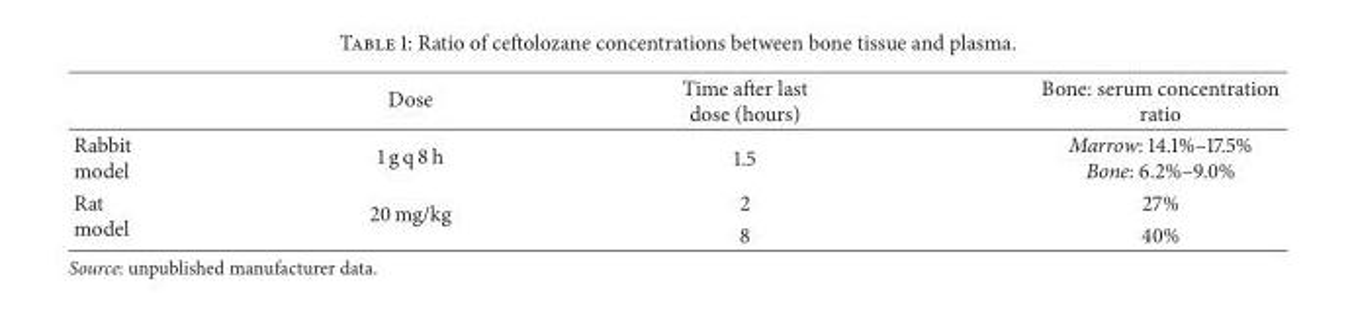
<table><thead><tr><td></td><td>Dose</td><td>Time after last dose (hours)</td><td>Bone: serum concentration ratio</td></tr></thead><tbody><tr><td>Rabbit model</td><td>1 g q 8 h</td><td>1.5</td><td>Marrow: 14.1%–17.5% Bone: 6.2%–9.0%</td></tr><tr><td rowspan="2">Rat model</td><td rowspan="2">20 mg/kg</td><td>2</td><td>27%</td></tr><tr><td>8</td><td>40%</td></tr></tbody></table>